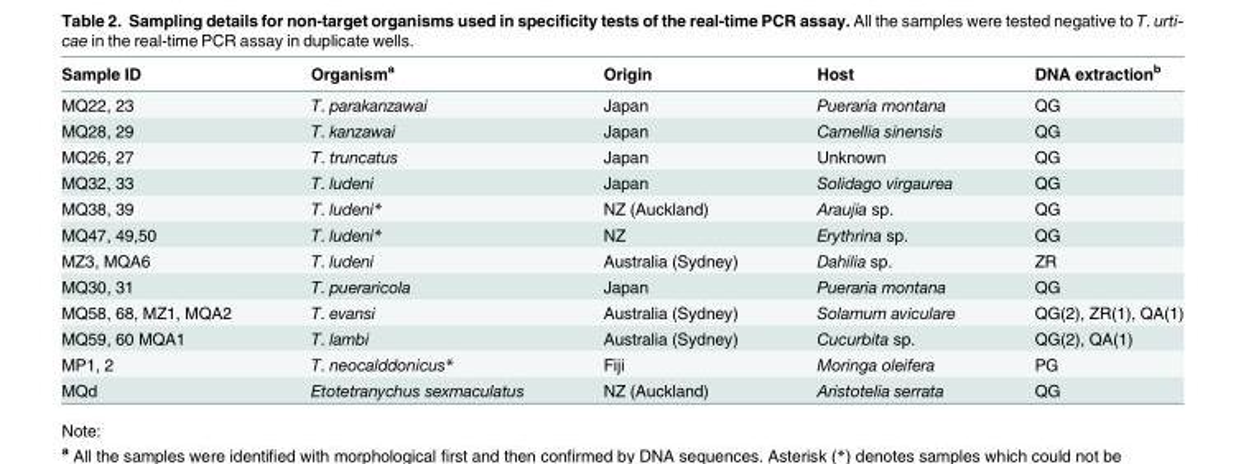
<table><thead><tr><td>Sample ID</td><td>Organism<sup>a</sup></td><td>Origin</td><td>Host</td><td>DNA extraction<sup>b</sup></td></tr></thead><tbody><tr><td>MQ22, 23</td><td>T. parakanzawai</td><td>Japan</td><td>Pueraria montana</td><td>QG</td></tr><tr><td>MQ28, 29</td><td>T. kanzawai</td><td>Japan</td><td>Camellia sinensis</td><td>QG</td></tr><tr><td>MQ26, 27</td><td>T. truncatus</td><td>Japan</td><td>Unknown</td><td>QG</td></tr><tr><td>MQ32, 33</td><td>T. ludeni</td><td>Japan</td><td>Solidago virgaurea</td><td>QG</td></tr><tr><td>MQ38, 39</td><td>T. ludeni*</td><td>NZ (Auckland)</td><td>Araujia sp.</td><td>QG</td></tr><tr><td>MQ47, 49,50</td><td>T. ludeni*</td><td>NZ</td><td>Erythrina sp.</td><td>QG</td></tr><tr><td>MZ3, MQA6</td><td>T. ludeni</td><td>Australia (Sydney)</td><td>Dahilia sp.</td><td>ZR</td></tr><tr><td>MQ30, 31</td><td>T. pueraricola</td><td>Japan</td><td>Pueraria montana</td><td>QG</td></tr><tr><td>MQ58, 68, MZ1, MQA2</td><td>T. evansi</td><td>Australia (Sydney)</td><td>Solamum aviculare</td><td>QG(2), ZR(1), QA(1)</td></tr><tr><td>MQ59, 60 MQA1</td><td>T. lambi</td><td>Australia (Sydney)</td><td>Cucurbita sp.</td><td>QG(2), QA(1)</td></tr><tr><td>MP1, 2</td><td>T. neocalddonicus*</td><td>Fiji</td><td>Moringa oleifera</td><td>PG</td></tr><tr><td>MQd</td><td>Etotetranychus sexmaculatus</td><td>NZ (Auckland)</td><td>Aristotelia serrata</td><td>QG</td></tr></tbody></table>